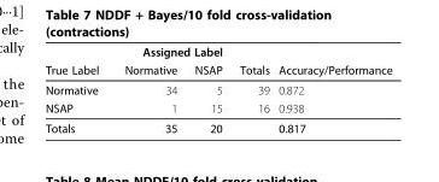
<table><thead><tr><td rowspan="2">True Label</td><td colspan="2">Assigned Label</td><td rowspan="2">Totals</td><td rowspan="2">Accuracy/Performance</td></tr><tr><td>Normative</td><td>NSAP</td></tr></thead><tbody><tr><td>Normative</td><td>34</td><td>5</td><td>39</td><td>0.872</td></tr><tr><td>NSAP</td><td>1</td><td>15</td><td>16</td><td>0.938</td></tr><tr><td>Totals</td><td>35</td><td>20</td><td></td><td>0.817</td></tr></tbody></table>